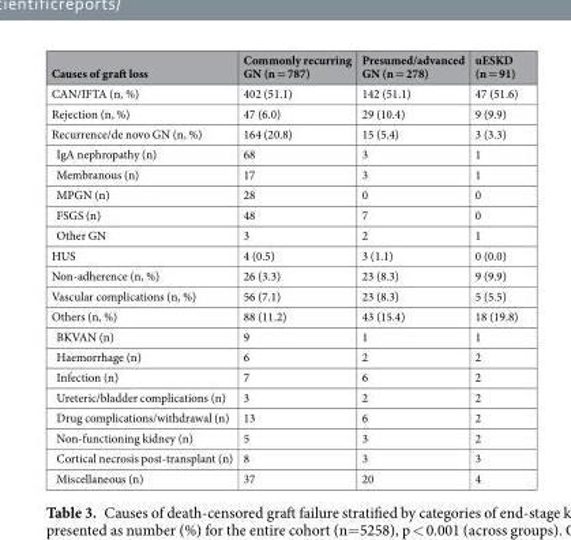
<table><thead><tr><td>Causes of graft loss</td><td>Commonly recurring GN (n = 787)</td><td>Presumed/advanced GN (n = 278)</td><td>uESKD (n = 91)</td></tr></thead><tbody><tr><td>CAN/IFTA (n, %)</td><td>402 (51.1)</td><td>142 (51.1)</td><td>47 (51.6)</td></tr><tr><td>Rejection (n, %)</td><td>47 (6.0)</td><td>29 (10.4)</td><td>9 (9.9)</td></tr><tr><td>Recurrence/de novo GN (n, %)</td><td>164 (20.8)</td><td>15 (5.4)</td><td>3 (3.3)</td></tr><tr><td>IgA nephropathy (n)</td><td>68</td><td>3</td><td>1</td></tr><tr><td>Membranous (n)</td><td>17</td><td>3</td><td>1</td></tr><tr><td>MPGN (n)</td><td>28</td><td>0</td><td>0</td></tr><tr><td>FSGS (n)</td><td>48</td><td>7</td><td>0</td></tr><tr><td>Other GN</td><td>3</td><td>2</td><td>1</td></tr><tr><td>HUS</td><td>4 (0.5)</td><td>3 (1.1)</td><td>0 (0.0)</td></tr><tr><td>Non-adherence (n, %)</td><td>26 (3.3)</td><td>23 (8.3)</td><td>9 (9.9)</td></tr><tr><td>Vascular complications (n, %)</td><td>56 (7.1)</td><td>23 (8.3)</td><td>5 (5.5)</td></tr><tr><td>Others (n, %)</td><td>88 (11.2)</td><td>43 (15.4)</td><td>18 (19.8)</td></tr><tr><td>BKVAN (n)</td><td>9</td><td>1</td><td>1</td></tr><tr><td>Haemorrhage (n)</td><td>6</td><td>2</td><td>2</td></tr><tr><td>Infection (n)</td><td>7</td><td>6</td><td>2</td></tr><tr><td>Ureteric/bladder complications (n)</td><td>3</td><td>2</td><td>2</td></tr><tr><td>Drug complications/withdrawal (n)</td><td>13</td><td>6</td><td>2</td></tr><tr><td>Non-functioning kidney (n)</td><td>5</td><td>3</td><td>2</td></tr><tr><td>Cortical necrosis post-transplant (n)</td><td>8</td><td>3</td><td>3</td></tr><tr><td>Miscellaneous (n)</td><td>37</td><td>20</td><td>4</td></tr></tbody></table>